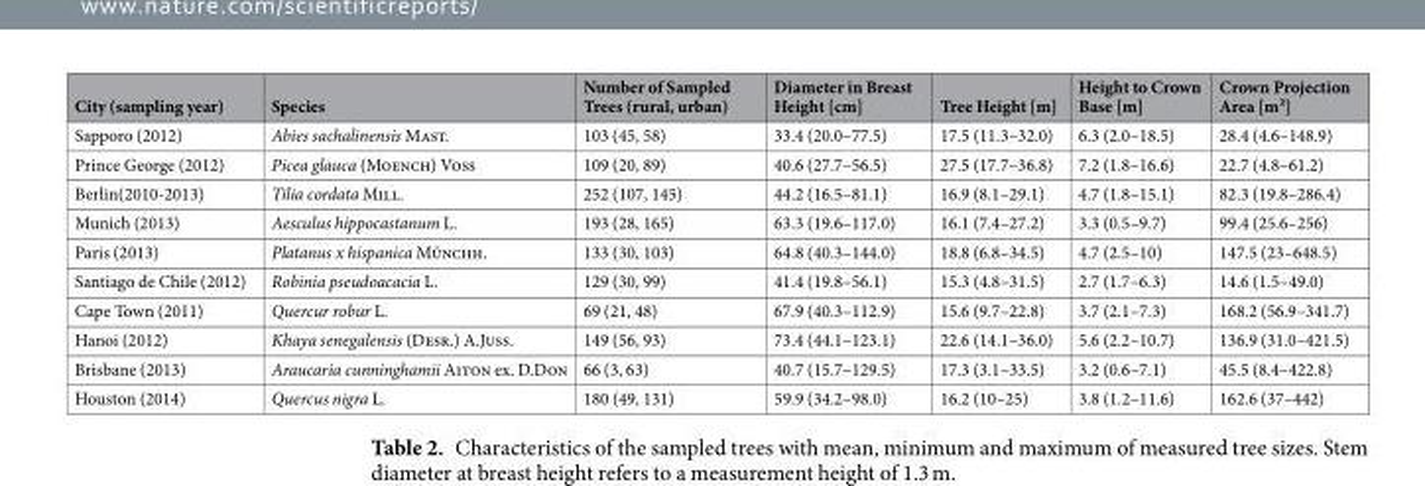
<table><thead><tr><td>City (sampling year)</td><td>Species</td><td>Number of Sampled Trees (rural, urban)</td><td>Diameter in Breast Height [cm]</td><td>Tree Height [m]</td><td>Height to Crown Base [m]</td><td>Crown Projection Area [m²]</td></tr></thead><tbody><tr><td>Sapporo (2012)</td><td>Abies sachalinensis Mast.</td><td>103 (45, 58)</td><td>33.4 (20.0–77.5)</td><td>17.5 (11.3–32.0)</td><td>6.3 (2.0–18.5)</td><td>28.4 (4.6–148.9)</td></tr><tr><td>Prince George (2012)</td><td>Picea glauca (Moench) Voss</td><td>109 (20, 89)</td><td>40.6 (27.7–56.5)</td><td>27.5 (17.7–36.8)</td><td>7.2 (1.8–16.6)</td><td>22.7 (4.8–61.2)</td></tr><tr><td>Berlin(2010-2013)</td><td>Tilia cordata Mill.</td><td>252 (107, 145)</td><td>44.2 (16.5–81.1)</td><td>16.9 (8.1–29.1)</td><td>4.7 (1.8–15.1)</td><td>82.3 (19.8–286.4)</td></tr><tr><td>Munich (2013)</td><td>Aesculus hippocastanum L.</td><td>193 (28, 165)</td><td>63.3 (19.6–117.0)</td><td>16.1 (7.4–27.2)</td><td>3.3 (0.5–9.7)</td><td>99.4 (25.6–256)</td></tr><tr><td>Paris (2013)</td><td>Platanus x hispanica Münchh.</td><td>133 (30, 103)</td><td>64.8 (40.3–144.0)</td><td>18.8 (6.8–34.5)</td><td>4.7 (2.5–10)</td><td>147.5 (23–648.5)</td></tr><tr><td>Santiago de Chile (2012)</td><td>Robinia pseudoacacia L.</td><td>129 (30, 99)</td><td>41.4 (19.8–56.1)</td><td>15.3 (4.8–31.5)</td><td>2.7 (1.7–6.3)</td><td>14.6 (1.5–49.0)</td></tr><tr><td>Cape Town (2011)</td><td>Quercur robur L.</td><td>69 (21, 48)</td><td>67.9 (40.3–112.9)</td><td>15.6 (9.7–22.8)</td><td>3.7 (2.1–7.3)</td><td>168.2 (56.9–341.7)</td></tr><tr><td>Hanoi (2012)</td><td>Khaya senegalensis (Desr.) A.Juss.</td><td>149 (56, 93)</td><td>73.4 (44.1–123.1)</td><td>22.6 (14.1–36.0)</td><td>5.6 (2.2–10.7)</td><td>136.9 (31.0–421.5)</td></tr><tr><td>Brisbane (2013)</td><td>Araucaria cunninghamii Aiton ex. D.Don</td><td>66 (3, 63)</td><td>40.7 (15.7–129.5)</td><td>17.3 (3.1–33.5)</td><td>3.2 (0.6–7.1)</td><td>45.5 (8.4–422.8)</td></tr><tr><td>Houston (2014)</td><td>Quercus nigra L.</td><td>180 (49, 131)</td><td>59.9 (34.2–98.0)</td><td>16.2 (10–25)</td><td>3.8 (1.2–11.6)</td><td>162.6 (37–442)</td></tr></tbody></table>